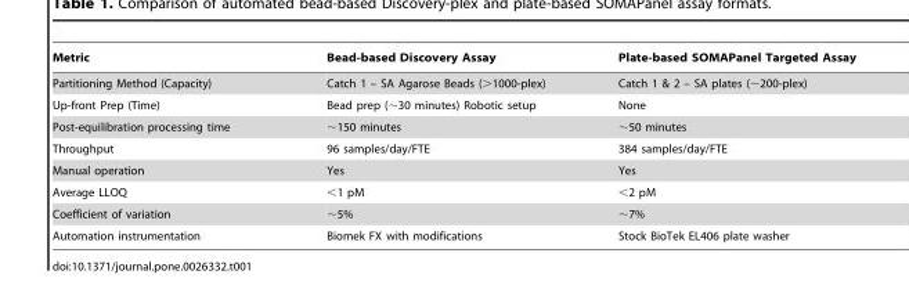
<table><thead><tr><td>Metric</td><td>Bead-based Discovery Assay</td><td>Plate-based SOMAPanel Targeted Assay</td></tr></thead><tbody><tr><td>Partitioning Method (Capacity)</td><td>Catch 1 – SA Agarose Beads (&gt;1000-plex)</td><td>Catch 1 &amp; 2 – SA plates (∼200-plex)</td></tr><tr><td>Up-front Prep (Time)</td><td>Bead prep (∼30 minutes) Robotic setup</td><td>None</td></tr><tr><td>Post-equilibration processing time</td><td>∼150 minutes</td><td>∼50 minutes</td></tr><tr><td>Throughput</td><td>96 samples/day/FTE</td><td>384 samples/day/FTE</td></tr><tr><td>Manual operation</td><td>Yes</td><td>Yes</td></tr><tr><td>Average LLOQ</td><td>&lt;1 pM</td><td>&lt;2 pM</td></tr><tr><td>Coefficient of variation</td><td>∼5%</td><td>∼7%</td></tr><tr><td>Automation instrumentation</td><td>Biomek FX with modifications</td><td>Stock BioTek EL406 plate washer</td></tr></tbody></table>